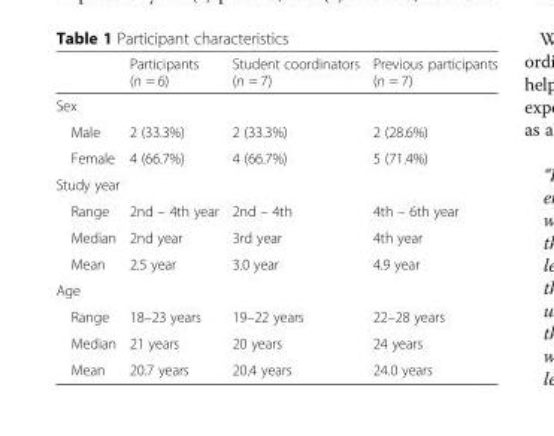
<table><thead><tr><td></td><td>Participants (n = 6)</td><td>Student coordinators (n = 7)</td><td>Previous participants (n = 7)</td></tr></thead><tbody><tr><td colspan="4">Sex</td></tr><tr><td>Male</td><td>2 (33.3%)</td><td>2 (33.3%)</td><td>2 (28.6%)</td></tr><tr><td>Female</td><td>4 (66.7%)</td><td>4 (66.7%)</td><td>5 (71.4%)</td></tr><tr><td colspan="4">Study year</td></tr><tr><td>Range</td><td>2nd – 4th year</td><td>2nd – 4th</td><td>4th – 6th year</td></tr><tr><td>Median</td><td>2nd year</td><td>3rd year</td><td>4th year</td></tr><tr><td>Mean</td><td>2.5 year</td><td>3.0 year</td><td>4.9 year</td></tr><tr><td colspan="4">Age</td></tr><tr><td>Range</td><td>18–23 years</td><td>19–22 years</td><td>22–28 years</td></tr><tr><td>Median</td><td>21 years</td><td>20 years</td><td>24 years</td></tr><tr><td>Mean</td><td>20.7 years</td><td>20.4 years</td><td>24.0 years</td></tr></tbody></table>